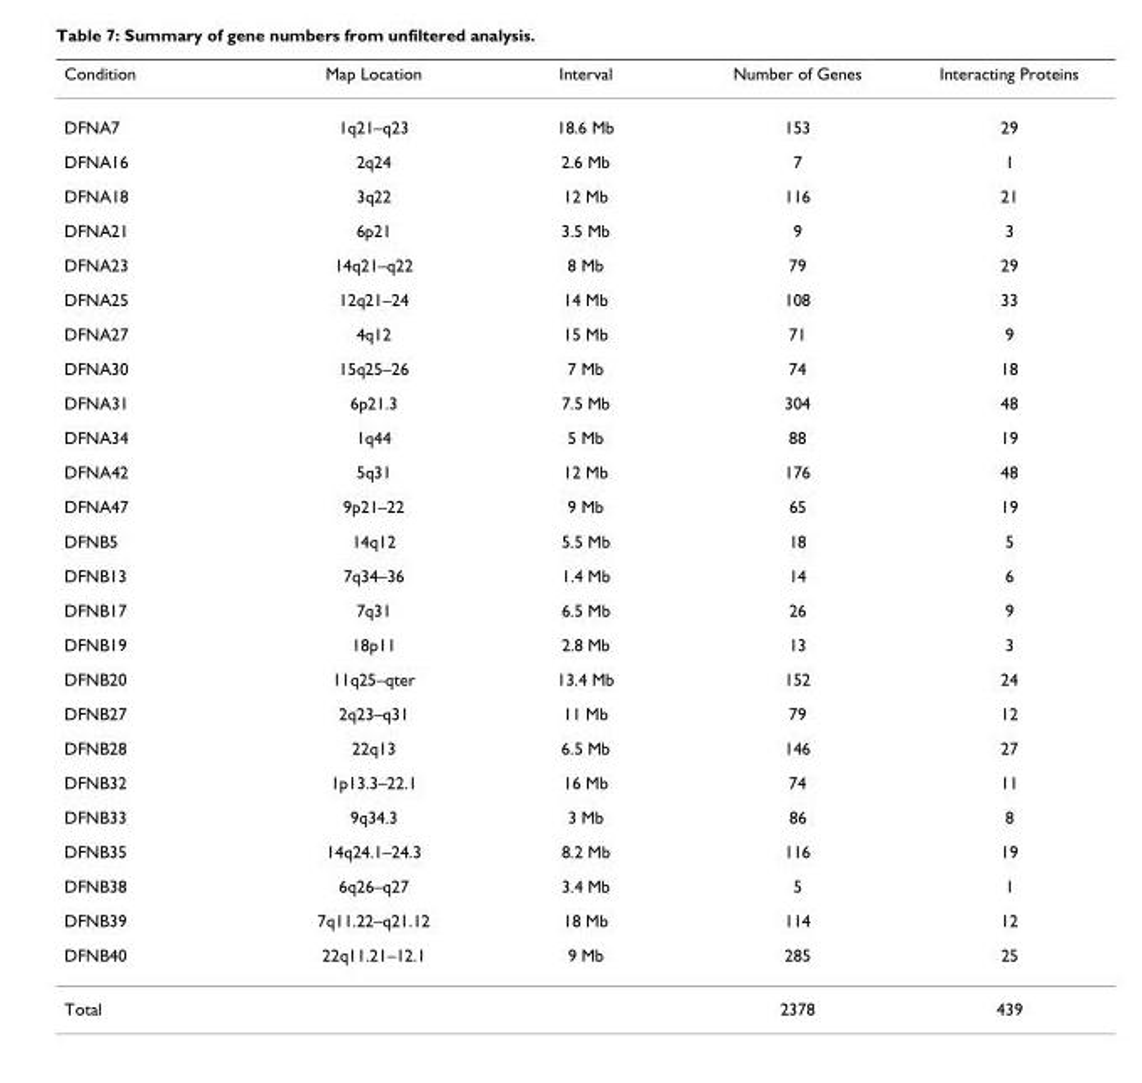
<table><thead><tr><td>Condition</td><td>Map Location</td><td>Interval</td><td>Number of Genes</td><td>Interacting Proteins</td></tr></thead><tbody><tr><td>DFNA7</td><td>1q21–q23</td><td>18.6 Mb</td><td>153</td><td>29</td></tr><tr><td>DFNA16</td><td>2q24</td><td>2.6 Mb</td><td>7</td><td>1</td></tr><tr><td>DFNA18</td><td>3q22</td><td>12 Mb</td><td>116</td><td>21</td></tr><tr><td>DFNA21</td><td>6p21</td><td>3.5 Mb</td><td>9</td><td>3</td></tr><tr><td>DFNA23</td><td>14q21–q22</td><td>8 Mb</td><td>79</td><td>29</td></tr><tr><td>DFNA25</td><td>12q21–24</td><td>14 Mb</td><td>108</td><td>33</td></tr><tr><td>DFNA27</td><td>4q12</td><td>15 Mb</td><td>71</td><td>9</td></tr><tr><td>DFNA30</td><td>15q25–26</td><td>7 Mb</td><td>74</td><td>18</td></tr><tr><td>DFNA31</td><td>6p21.3</td><td>7.5 Mb</td><td>304</td><td>48</td></tr><tr><td>DFNA34</td><td>1q44</td><td>5 Mb</td><td>88</td><td>19</td></tr><tr><td>DFNA42</td><td>5q31</td><td>12 Mb</td><td>176</td><td>48</td></tr><tr><td>DFNA47</td><td>9p21–22</td><td>9 Mb</td><td>65</td><td>19</td></tr><tr><td>DFNB5</td><td>14q12</td><td>5.5 Mb</td><td>18</td><td>5</td></tr><tr><td>DFNB13</td><td>7q34–36</td><td>1.4 Mb</td><td>14</td><td>6</td></tr><tr><td>DFNB17</td><td>7q31</td><td>6.5 Mb</td><td>26</td><td>9</td></tr><tr><td>DFNB19</td><td>18p11</td><td>2.8 Mb</td><td>13</td><td>3</td></tr><tr><td>DFNB20</td><td>11q25–qter</td><td>13.4 Mb</td><td>152</td><td>24</td></tr><tr><td>DFNB27</td><td>2q23–q31</td><td>11 Mb</td><td>79</td><td>12</td></tr><tr><td>DFNB28</td><td>22q13</td><td>6.5 Mb</td><td>146</td><td>27</td></tr><tr><td>DFNB32</td><td>1p13.3–22.1</td><td>16 Mb</td><td>74</td><td>11</td></tr><tr><td>DFNB33</td><td>9q34.3</td><td>3 Mb</td><td>86</td><td>8</td></tr><tr><td>DFNB35</td><td>14q24.1–24.3</td><td>8.2 Mb</td><td>116</td><td>19</td></tr><tr><td>DFNB38</td><td>6q26–q27</td><td>3.4 Mb</td><td>5</td><td>1</td></tr><tr><td>DFNB39</td><td>7q11.22–q21.12</td><td>18 Mb</td><td>114</td><td>12</td></tr><tr><td>DFNB40</td><td>22q11.21–12.1</td><td>9 Mb</td><td>285</td><td>25</td></tr><tr><td>Total</td><td></td><td></td><td>2378</td><td>439</td></tr></tbody></table>